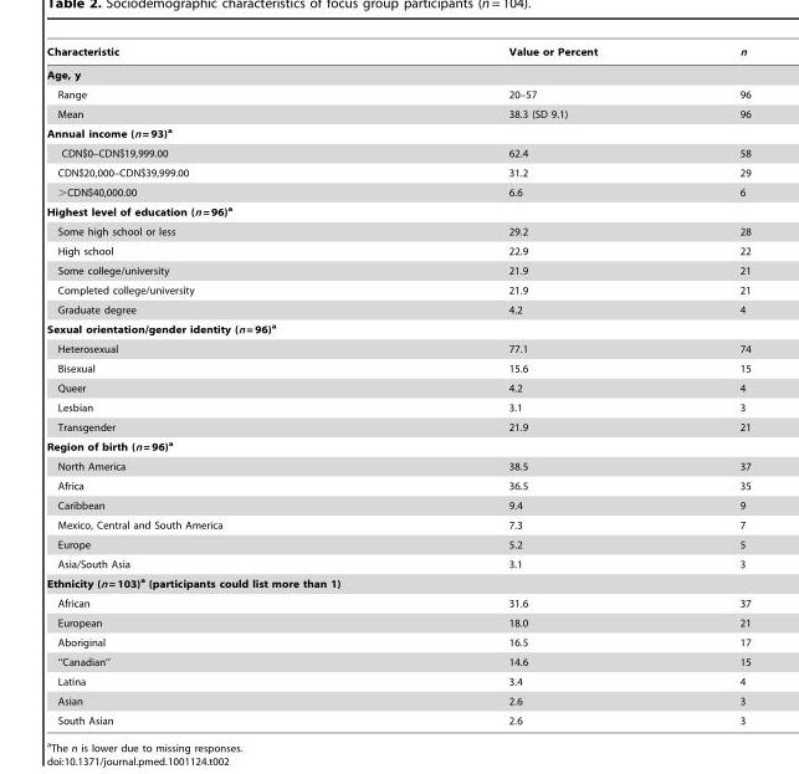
<table><thead><tr><td>Characteristic</td><td>Value or Percent</td><td>n</td></tr></thead><tbody><tr><td colspan="3">Age, y</td></tr><tr><td>Range</td><td>20–57</td><td>96</td></tr><tr><td>Mean</td><td>38.3 (SD 9.1)</td><td>96</td></tr><tr><td colspan="3">Annual income (n = 93)a</td></tr><tr><td>CDN$0–CDN$19,999.00</td><td>62.4</td><td>58</td></tr><tr><td>CDN$20,000–CDN$39,999.00</td><td>31.2</td><td>29</td></tr><tr><td>&gt;CDN$40,000.00</td><td>6.6</td><td>6</td></tr><tr><td colspan="3">Highest level of education (n = 96)a</td></tr><tr><td>Some high school or less</td><td>29.2</td><td>28</td></tr><tr><td>High school</td><td>22.9</td><td>22</td></tr><tr><td>Some college/university</td><td>21.9</td><td>21</td></tr><tr><td>Completed college/university</td><td>21.9</td><td>21</td></tr><tr><td>Graduate degree</td><td>4.2</td><td>4</td></tr><tr><td colspan="3">Sexual orientation/gender identity (n = 96)a</td></tr><tr><td>Heterosexual</td><td>77.1</td><td>74</td></tr><tr><td>Bisexual</td><td>15.6</td><td>15</td></tr><tr><td>Queer</td><td>4.2</td><td>4</td></tr><tr><td>Lesbian</td><td>3.1</td><td>3</td></tr><tr><td>Transgender</td><td>21.9</td><td>21</td></tr><tr><td colspan="3">Region of birth (n = 96)a</td></tr><tr><td>North America</td><td>38.5</td><td>37</td></tr><tr><td>Africa</td><td>36.5</td><td>35</td></tr><tr><td>Caribbean</td><td>9.4</td><td>9</td></tr><tr><td>Mexico, Central and South America</td><td>7.3</td><td>7</td></tr><tr><td>Europe</td><td>5.2</td><td>5</td></tr><tr><td>Asia/South Asia</td><td>3.1</td><td>3</td></tr><tr><td colspan="3">Ethnicity (n = 103)a (participants could list more than 1)</td></tr><tr><td>African</td><td>31.6</td><td>37</td></tr><tr><td>European</td><td>18.0</td><td>21</td></tr><tr><td>Aboriginal</td><td>16.5</td><td>17</td></tr><tr><td>‘‘Canadian’’</td><td>14.6</td><td>15</td></tr><tr><td>Latina</td><td>3.4</td><td>4</td></tr><tr><td>Asian</td><td>2.6</td><td>3</td></tr><tr><td>South Asian</td><td>2.6</td><td>3</td></tr></tbody></table>